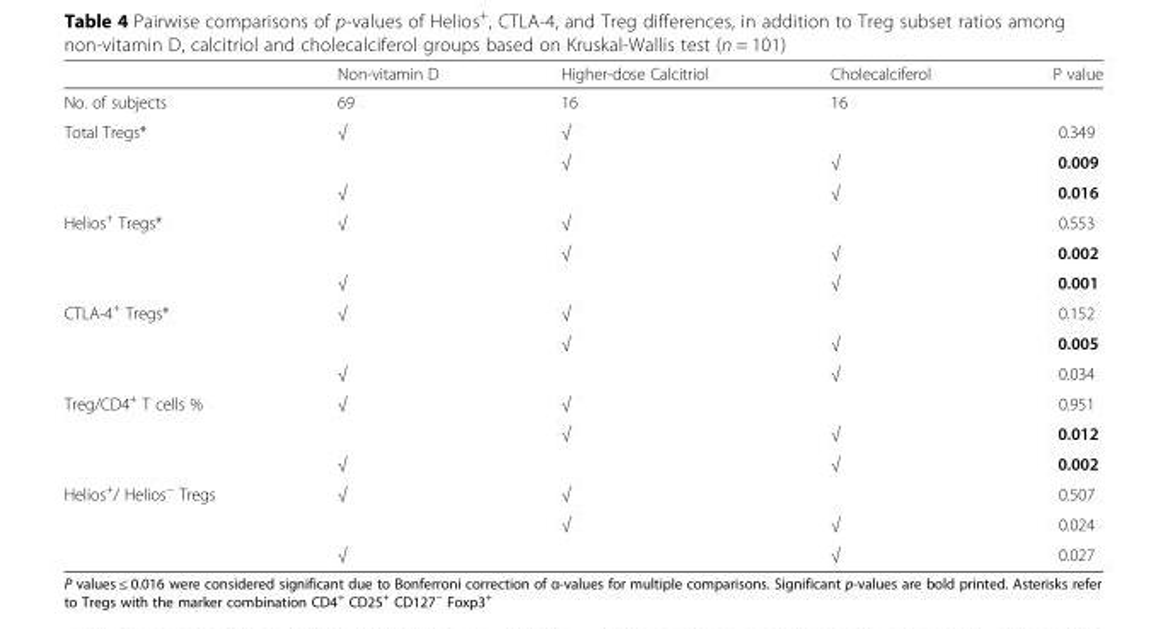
<table><thead><tr><td></td><td>Non-vitamin D</td><td>Higher-dose Calcitriol</td><td>Cholecalciferol</td><td>P value</td></tr></thead><tbody><tr><td>No. of subjects</td><td>69</td><td>16</td><td>16</td><td></td></tr><tr><td rowspan="3">Total Tregs*</td><td>√</td><td>√</td><td></td><td>0.349</td></tr><tr><td></td><td>√</td><td>√</td><td>0.009</td></tr><tr><td>√</td><td></td><td>√</td><td>0.016</td></tr><tr><td rowspan="3">Helios<sup>+</sup> Tregs*</td><td>√</td><td>√</td><td></td><td>0.553</td></tr><tr><td></td><td>√</td><td>√</td><td>0.002</td></tr><tr><td>√</td><td></td><td>√</td><td>0.001</td></tr><tr><td rowspan="3">CTLA-4<sup>+</sup> Tregs*</td><td>√</td><td>√</td><td></td><td>0.152</td></tr><tr><td></td><td>√</td><td>√</td><td>0.005</td></tr><tr><td>√</td><td></td><td>√</td><td>0.034</td></tr><tr><td rowspan="3">Treg/CD4<sup>+</sup> T cells %</td><td>√</td><td>√</td><td></td><td>0.951</td></tr><tr><td></td><td>√</td><td>√</td><td>0.012</td></tr><tr><td>√</td><td></td><td>√</td><td>0.002</td></tr><tr><td rowspan="3">Helios<sup>+</sup>/ Helios<sup>−</sup> Tregs</td><td>√</td><td>√</td><td></td><td>0.507</td></tr><tr><td></td><td>√</td><td>√</td><td>0.024</td></tr><tr><td>√</td><td></td><td>√</td><td>0.027</td></tr></tbody></table>